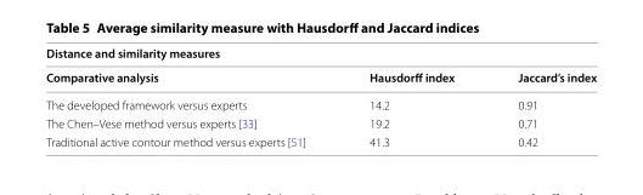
<table><thead><tr><td colspan="3">Distance and similarity measures</td></tr><tr><td>Comparative analysis</td><td>Hausdorff index</td><td>Jaccard’s index</td></tr></thead><tbody><tr><td>The developed framework versus experts</td><td>14.2</td><td>0.91</td></tr><tr><td>The Chen–Vese method versus experts [33]</td><td>19.2</td><td>0.71</td></tr><tr><td>Traditional active contour method versus experts [51]</td><td>41.3</td><td>0.42</td></tr></tbody></table>